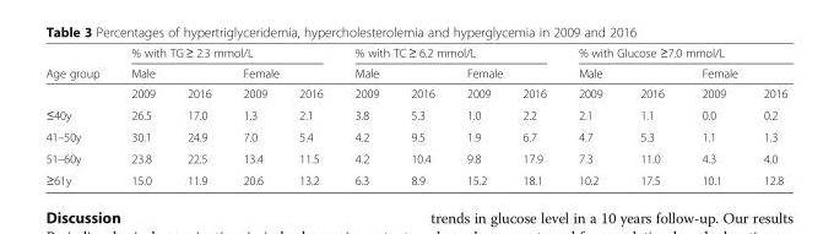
<table><thead><tr><td rowspan="3">Age group</td><td colspan="4">% with TG ≥ 2.3 mmol/L</td><td colspan="4">% with TC ≥ 6.2 mmol/L</td><td colspan="4">% with Glucose ≥7.0 mmol/L</td></tr><tr><td colspan="2">Male</td><td colspan="2">Female</td><td colspan="2">Male</td><td colspan="2">Female</td><td colspan="2">Male</td><td colspan="2">Female</td></tr><tr><td>2009</td><td>2016</td><td>2009</td><td>2016</td><td>2009</td><td>2016</td><td>2009</td><td>2016</td><td>2009</td><td>2016</td><td>2009</td><td>2016</td></tr></thead><tbody><tr><td>≤40y</td><td>26.5</td><td>17.0</td><td>1.3</td><td>2.1</td><td>3.8</td><td>5.3</td><td>1.0</td><td>2.2</td><td>2.1</td><td>1.1</td><td>0.0</td><td>0.2</td></tr><tr><td>41–50y</td><td>30.1</td><td>24.9</td><td>7.0</td><td>5.4</td><td>4.2</td><td>9.5</td><td>1.9</td><td>6.7</td><td>4.7</td><td>5.3</td><td>1.1</td><td>1.3</td></tr><tr><td>51–60y</td><td>23.8</td><td>22.5</td><td>13.4</td><td>11.5</td><td>4.2</td><td>10.4</td><td>9.8</td><td>17.9</td><td>7.3</td><td>11.0</td><td>4.3</td><td>4.0</td></tr><tr><td>≥61y</td><td>15.0</td><td>11.9</td><td>20.6</td><td>13.2</td><td>6.3</td><td>8.9</td><td>15.2</td><td>18.1</td><td>10.2</td><td>17.5</td><td>10.1</td><td>12.8</td></tr></tbody></table>